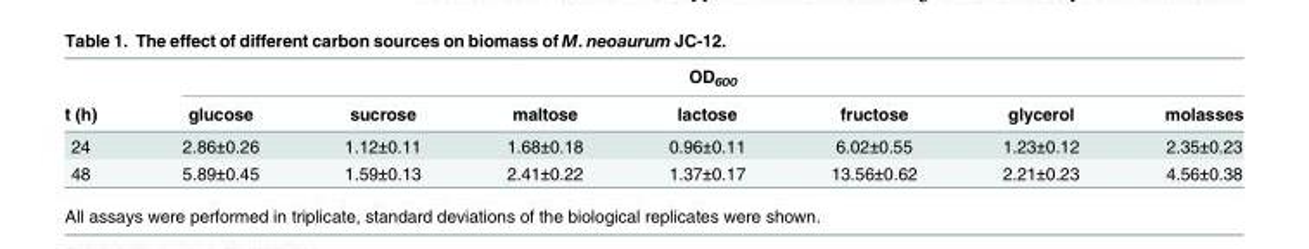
<table><thead><tr><td rowspan="2">t (h)</td><td colspan="7">OD<sub>600</sub></td></tr><tr><td>glucose</td><td>sucrose</td><td>maltose</td><td>lactose</td><td>fructose</td><td>glycerol</td><td>molasses</td></tr></thead><tbody><tr><td>24</td><td>2.86±0.26</td><td>1.12±0.11</td><td>1.68±0.18</td><td>0.96±0.11</td><td>6.02±0.55</td><td>1.23±0.12</td><td>2.35±0.23</td></tr><tr><td>48</td><td>5.89±0.45</td><td>1.59±0.13</td><td>2.41±0.22</td><td>1.37±0.17</td><td>13.56±0.62</td><td>2.21±0.23</td><td>4.56±0.38</td></tr></tbody></table>